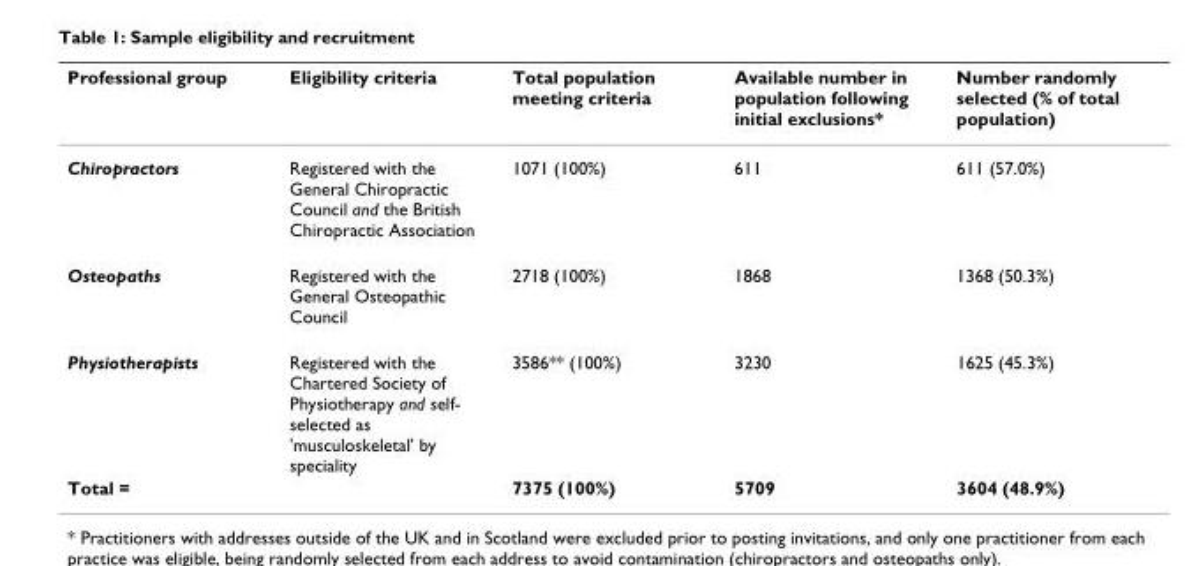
<table><thead><tr><td>Professional group</td><td>Eligibility criteria</td><td>Total population meeting criteria</td><td>Available number in population following initial exclusions*</td><td>Number randomly selected (% of total population)</td></tr></thead><tbody><tr><td>Chiropractors</td><td>Registered with the General Chiropractic Council and the British Chiropractic Association</td><td>1071 (100%)</td><td>611</td><td>611 (57.0%)</td></tr><tr><td>Osteopaths</td><td>Registered with the General Osteopathic Council</td><td>2718 (100%)</td><td>1868</td><td>1368 (50.3%)</td></tr><tr><td>Physiotherapists</td><td>Registered with the Chartered Society of Physiotherapy and self- selected as &#x27;musculoskeletal&#x27; by speciality</td><td>3586** (100%)</td><td>3230</td><td>1625 (45.3%)</td></tr><tr><td>Total =</td><td></td><td>7375 (100%)</td><td>5709</td><td>3604 (48.9%)</td></tr></tbody></table>